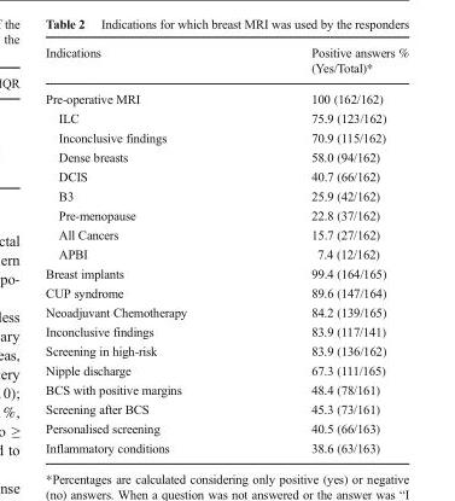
<table><thead><tr><td>Indications</td><td>Positive answers % (Yes/Total)*</td></tr></thead><tbody><tr><td>Pre-operative MRI</td><td>100 (162/162)</td></tr><tr><td>ILC</td><td>75.9 (123/162)</td></tr><tr><td>Inconclusive findings</td><td>70.9 (115/162)</td></tr><tr><td>Dense breasts</td><td>58.0 (94/162)</td></tr><tr><td>DCIS</td><td>40.7 (66/162)</td></tr><tr><td>B3</td><td>25.9 (42/162)</td></tr><tr><td>Pre-menopause</td><td>22.8 (37/162)</td></tr><tr><td>All Cancers</td><td>15.7 (27/162)</td></tr><tr><td>APBI</td><td>7.4 (12/162)</td></tr><tr><td>Breast implants</td><td>99.4 (164/165)</td></tr><tr><td>CUP syndrome</td><td>89.6 (147/164)</td></tr><tr><td>Neoadjuvant Chemotherapy</td><td>84.2 (139/165)</td></tr><tr><td>Inconclusive findings</td><td>83.9 (117/141)</td></tr><tr><td>Screening in high-risk</td><td>83.9 (136/162)</td></tr><tr><td>Nipple discharge</td><td>67.3 (111/165)</td></tr><tr><td>BCS with positive margins</td><td>48.4 (78/161)</td></tr><tr><td>Screening after BCS</td><td>45.3 (73/161)</td></tr><tr><td>Personalised screening</td><td>40.5 (66/163)</td></tr><tr><td>Inflammatory conditions</td><td>38.6 (63/163)</td></tr></tbody></table>